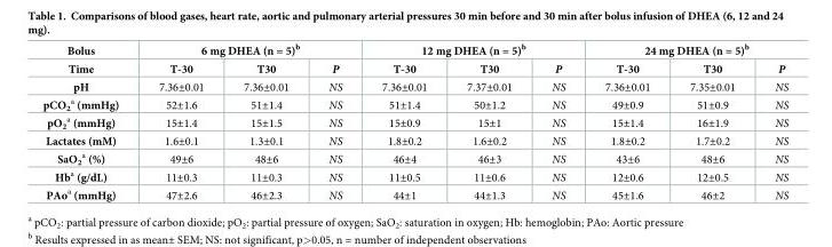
<table><thead><tr><td rowspan="2">Bolus Time</td><td colspan="3">6 mg DHEA (n = 5)<sup>b</sup></td><td colspan="3">12 mg DHEA (n = 5)<sup>b</sup></td><td colspan="3">24 mg DHEA (n = 5)<sup>b</sup></td></tr><tr><td>T-30</td><td>T30</td><td>P</td><td>T-30</td><td>T30</td><td>P</td><td>T-30</td><td>T30</td><td>P</td></tr></thead><tbody><tr><td>pH</td><td>7.36±0.01</td><td>7.36±0.01</td><td>NS</td><td>7.36±0.01</td><td>7.37±0.01</td><td>NS</td><td>7.36±0.01</td><td>7.35±0.01</td><td>NS</td></tr><tr><td>pCO<sub>2</sub> <sup>a</sup> (mmHg)</td><td>52±1.6</td><td>51±1.4</td><td>NS</td><td>51±1.4</td><td>50±1.2</td><td>NS</td><td>49±0.9</td><td>51±0.9</td><td>NS</td></tr><tr><td>pO<sub>2</sub> <sup>a</sup> (mmHg)</td><td>15±1.4</td><td>15±1.5</td><td>NS</td><td>15±0.9</td><td>15±1</td><td>NS</td><td>15±1.4</td><td>16±1.9</td><td>NS</td></tr><tr><td>Lactates (mM)</td><td>1.6±0.1</td><td>1.3±0.1</td><td>NS</td><td>1.8±0.2</td><td>1.6±0.2</td><td>NS</td><td>1.8±0.2</td><td>1.7±0.2</td><td>NS</td></tr><tr><td>SaO<sub>2</sub> <sup>a</sup> (%)</td><td>49±6</td><td>48±6</td><td>NS</td><td>46±4</td><td>46±3</td><td>NS</td><td>43±6</td><td>48±6</td><td>NS</td></tr><tr><td>Hb<sup>a</sup> (g/dL)</td><td>11±0.3</td><td>11±0.3</td><td>NS</td><td>11±0.5</td><td>11±0.6</td><td>NS</td><td>12±0.6</td><td>12±0.5</td><td>NS</td></tr><tr><td>PAo<sup>a</sup> (mmHg)</td><td>47±2.6</td><td>46±2.3</td><td>NS</td><td>44±1</td><td>44±1.3</td><td>NS</td><td>45±1.6</td><td>46±2</td><td>NS</td></tr></tbody></table>